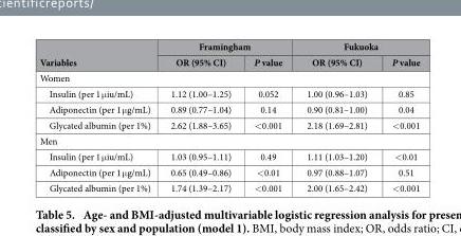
<table><thead><tr><td rowspan="2">Variables</td><td colspan="2">Framingham</td><td colspan="2">Fukuoka</td></tr><tr><td>OR (95% CI)</td><td>P value</td><td>OR (95% CI)</td><td>P value</td></tr></thead><tbody><tr><td colspan="5">Women</td></tr><tr><td>Insulin (per 1 μ iu/mL)</td><td>1.12 (1.00–1.25)</td><td>0.052</td><td>1.00 (0.96–1.03)</td><td>0.85</td></tr><tr><td>Adiponectin (per 1 μ g/mL)</td><td>0.89 (0.77–1.04)</td><td>0.14</td><td>0.90 (0.81–1.00)</td><td>0.04</td></tr><tr><td>Glycated albumin (per 1%)</td><td>2.62 (1.88–3.65)</td><td>&lt; 0.001</td><td>2.18 (1.69–2.81)</td><td>&lt; 0.001</td></tr><tr><td colspan="5">Men</td></tr><tr><td>Insulin (per 1 μ iu/mL)</td><td>1.03 (0.95–1.11)</td><td>0.49</td><td>1.11 (1.03–1.20)</td><td>&lt; 0.01</td></tr><tr><td>Adiponectin (per 1 μ g/mL)</td><td>0.65 (0.49–0.86)</td><td>&lt; 0.01</td><td>0.97 (0.88–1.07)</td><td>0.51</td></tr><tr><td>Glycated albumin (per 1%)</td><td>1.74 (1.39–2.17)</td><td>&lt; 0.001</td><td>2.00 (1.65–2.42)</td><td>&lt; 0.001</td></tr></tbody></table>